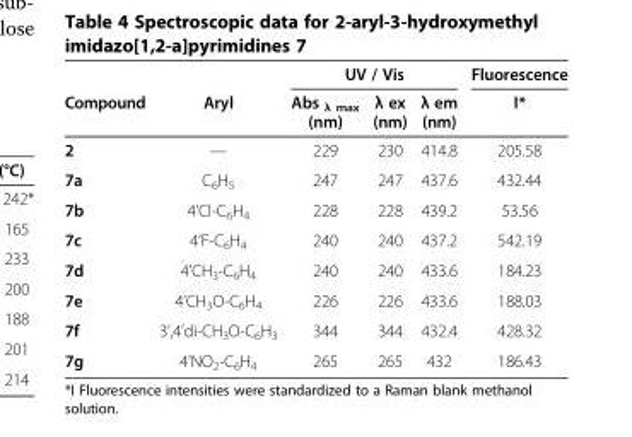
<table><thead><tr><td rowspan="2">Compound</td><td rowspan="2">Aryl</td><td colspan="3">UV / Vis</td><td rowspan="2">Fluorescence I*</td></tr><tr><td>Abs <sub>λ max</sub> (nm)</td><td>λ ex (nm)</td><td>λ em (nm)</td></tr></thead><tbody><tr><td>2</td><td>—</td><td>229</td><td>230</td><td>414.8</td><td>205.58</td></tr><tr><td>7a</td><td>C<sub>6</sub>H<sub>5</sub></td><td>247</td><td>247</td><td>437.6</td><td>432.44</td></tr><tr><td>7b</td><td>4’Cl-C<sub>6</sub>H<sub>4</sub></td><td>228</td><td>228</td><td>439.2</td><td>53.56</td></tr><tr><td>7c</td><td>4’F-C<sub>6</sub>H<sub>4</sub></td><td>240</td><td>240</td><td>437.2</td><td>542.19</td></tr><tr><td>7d</td><td>4’CH<sub>3</sub>-C<sub>6</sub>H<sub>4</sub></td><td>240</td><td>240</td><td>433.6</td><td>184.23</td></tr><tr><td>7e</td><td>4’CH<sub>3</sub>O-C<sub>6</sub>H<sub>4</sub></td><td>226</td><td>226</td><td>433.6</td><td>188.03</td></tr><tr><td>7f</td><td>3’,4’di-CH<sub>3</sub>O-C<sub>6</sub>H<sub>3</sub></td><td>344</td><td>344</td><td>432.4</td><td>428.32</td></tr><tr><td>7g</td><td>4’NO<sub>2</sub>-C<sub>6</sub>H<sub>4</sub></td><td>265</td><td>265</td><td>432</td><td>186.43</td></tr></tbody></table>